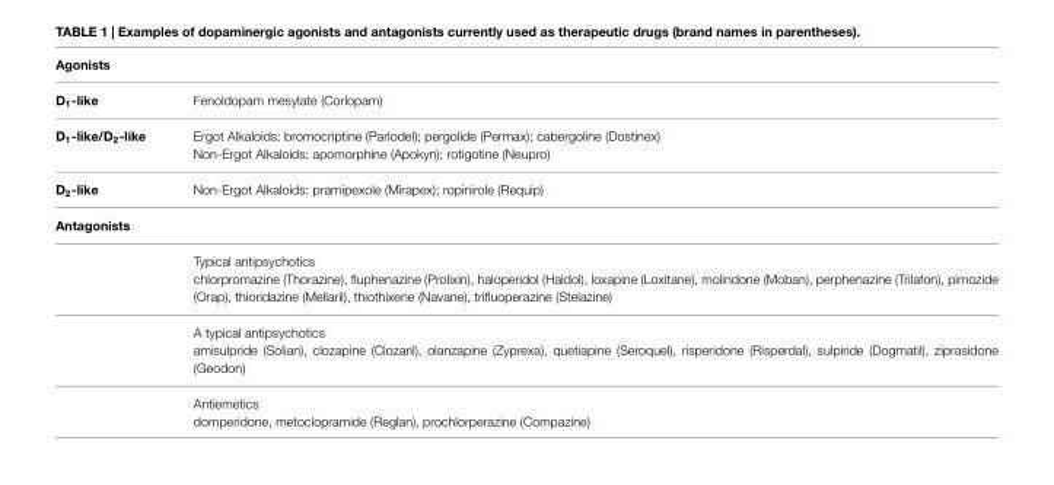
<table><tbody><tr><td colspan="2">Agonists</td></tr><tr><td>D<sub>1</sub>-like</td><td>Fenoldopam mesylate (Corlopam)</td></tr><tr><td>D<sub>1</sub>-like/D<sub>2</sub>-like</td><td>Ergot Alkaloids: bromocriptine (Parlodel); pergolide (Permax); cabergoline (Dostinex) Non-Ergot Alkaloids: apomorphine (Apokyn); rotigotine (Neupro)</td></tr><tr><td>D<sub>2</sub>-like</td><td>Non-Ergot Alkaloids: pramipexole (Mirapex); ropinirole (Requip)</td></tr><tr><td colspan="2">Antagonists</td></tr><tr><td></td><td>Typical antipsychotics chlorpromazine (Thorazine), fluphenazine (Prolixin), haloperidol (Haldol), loxapine (Loxitane), molindone (Moban), perphenazine (Trilafon), pimozide (Orap), thioridazine (Mellaril), thiothixene (Navane), trifluoperazine (Stelazine)</td></tr><tr><td></td><td>A typical antipsychotics amisulpride (Solian), clozapine (Clozaril), olanzapine (Zyprexa), quetiapine (Seroquel), risperidone (Risperdal), sulpiride (Dogmatil), ziprasidone (Geodon)</td></tr><tr><td></td><td>Antiemetics domperidone, metoclopramide (Reglan), prochlorperazine (Compazine)</td></tr></tbody></table>